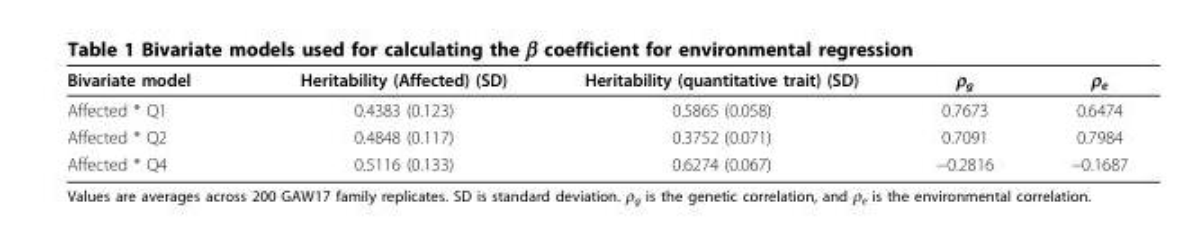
<table><thead><tr><td>Bivariate model</td><td>Heritability (Affected) (SD)</td><td>Heritability (quantitative trait) (SD)</td><td>ρ<sub>g</sub></td><td>ρ<sub>e</sub></td></tr></thead><tbody><tr><td>Affected * Q1</td><td>0.4383 (0.123)</td><td>0.5865 (0.058)</td><td>0.7673</td><td>0.6474</td></tr><tr><td>Affected * Q2</td><td>0.4848 (0.117)</td><td>0.3752 (0.071)</td><td>0.7091</td><td>0.7984</td></tr><tr><td>Affected * Q4</td><td>0.5116 (0.133)</td><td>0.6274 (0.067)</td><td>−0.2816</td><td>−0.1687</td></tr></tbody></table>